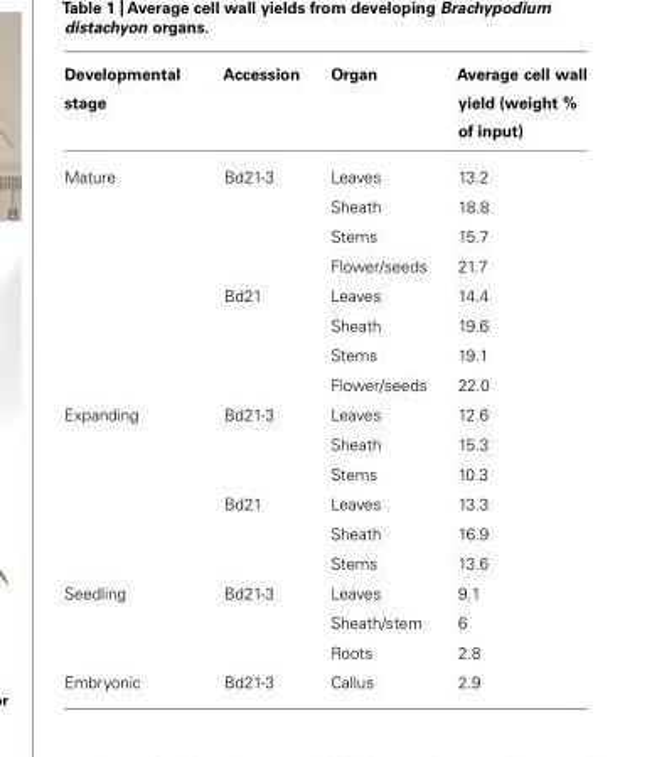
<table><thead><tr><td>Developmental stage</td><td>Accession</td><td>Organ</td><td>Average cell wall yield (weight % of input)</td></tr></thead><tbody><tr><td rowspan="8">Mature</td><td>Bd21-3</td><td>Leaves</td><td>13.2</td></tr><tr><td></td><td>Sheath</td><td>18.8</td></tr><tr><td></td><td>Stems</td><td>15.7</td></tr><tr><td></td><td>Flower/seeds</td><td>21.7</td></tr><tr><td>Bd21</td><td>Leaves</td><td>14.4</td></tr><tr><td></td><td>Sheath</td><td>19.6</td></tr><tr><td></td><td>Stems</td><td>19.1</td></tr><tr><td></td><td>Flower/seeds</td><td>22.0</td></tr><tr><td rowspan="6">Expanding</td><td>Bd21-3</td><td>Leaves</td><td>12.6</td></tr><tr><td></td><td>Sheath</td><td>15.3</td></tr><tr><td></td><td>Stems</td><td>10.3</td></tr><tr><td>Bd21</td><td>Leaves</td><td>13.3</td></tr><tr><td></td><td>Sheath</td><td>16.9</td></tr><tr><td></td><td>Stems</td><td>13.6</td></tr><tr><td rowspan="3">Seedling</td><td>Bd21-3</td><td>Leaves</td><td>9.1</td></tr><tr><td></td><td>Sheath/stem</td><td>6</td></tr><tr><td></td><td>Roots</td><td>2.8</td></tr><tr><td>Embryonic</td><td>Bd21-3</td><td>Callus</td><td>2.9</td></tr></tbody></table>